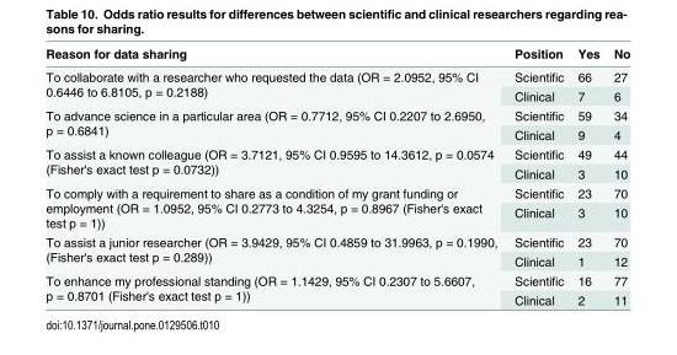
<table><thead><tr><td>Reason for data sharing</td><td>Position</td><td>Yes</td><td>No</td></tr></thead><tbody><tr><td rowspan="2">To collaborate with a researcher who requested the data (OR = 2.0952, 95% CI 0.6446 to 6.8105, p = 0.2188)</td><td>Scientific</td><td>66</td><td>27</td></tr><tr><td>Clinical</td><td>7</td><td>6</td></tr><tr><td rowspan="2">To advance science in a particular area (OR = 0.7712, 95% CI 0.2207 to 2.6950, p = 0.6841)</td><td>Scientific</td><td>59</td><td>34</td></tr><tr><td>Clinical</td><td>9</td><td>4</td></tr><tr><td rowspan="2">To assist a known colleague (OR = 3.7121, 95% CI 0.9595 to 14.3612, p = 0.0574 (Fisher&#x27;s exact test p = 0.0732))</td><td>Scientific</td><td>49</td><td>44</td></tr><tr><td>Clinical</td><td>3</td><td>10</td></tr><tr><td rowspan="2">To comply with a requirement to share as a condition of my grant funding or employment (OR = 1.0952, 95% CI 0.2773 to 4.3254, p = 0.8967 (Fisher&#x27;s exact test p = 1))</td><td>Scientific</td><td>23</td><td>70</td></tr><tr><td>Clinical</td><td>3</td><td>10</td></tr><tr><td rowspan="2">To assist a junior researcher (OR = 3.9429, 95% CI 0.4859 to 31.9963, p = 0.1990, (Fisher&#x27;s exact test p = 0.289))</td><td>Scientific</td><td>23</td><td>70</td></tr><tr><td>Clinical</td><td>1</td><td>12</td></tr><tr><td rowspan="2">To enhance my professional standing (OR = 1.1429, 95% CI 0.2307 to 5.6607, p = 0.8701 (Fisher&#x27;s exact test p = 1))</td><td>Scientific</td><td>16</td><td>77</td></tr><tr><td>Clinical</td><td>2</td><td>11</td></tr></tbody></table>